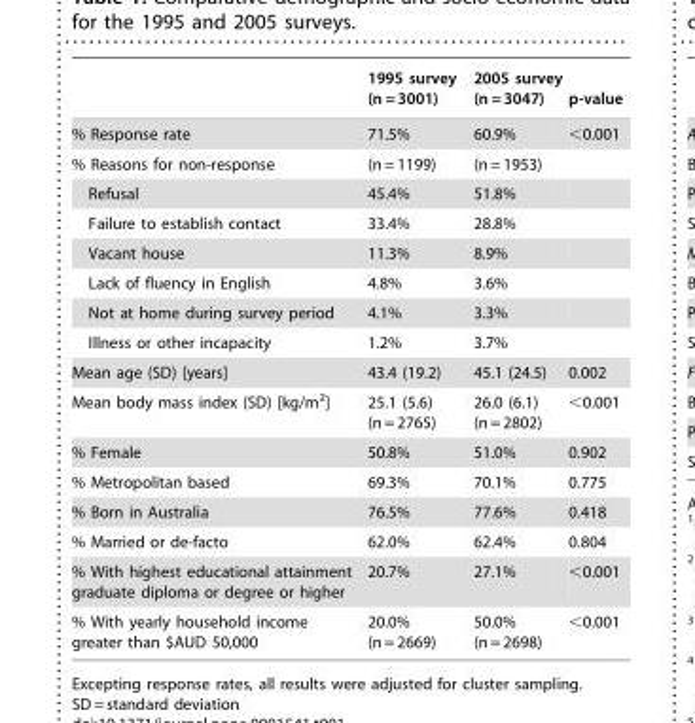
<table><thead><tr><td></td><td>1995 survey (n = 3001)</td><td>2005 survey (n = 3047)</td><td>p-value</td></tr></thead><tbody><tr><td>% Response rate</td><td>71.5%</td><td>60.9%</td><td>&lt;0.001</td></tr><tr><td>% Reasons for non-response</td><td>(n = 1199)</td><td>(n = 1953)</td><td></td></tr><tr><td>Refusal</td><td>45.4%</td><td>51.8%</td><td></td></tr><tr><td>Failure to establish contact</td><td>33.4%</td><td>28.8%</td><td></td></tr><tr><td>Vacant house</td><td>11.3%</td><td>8.9%</td><td></td></tr><tr><td>Lack of fluency in English</td><td>4.8%</td><td>3.6%</td><td></td></tr><tr><td>Not at home during survey period</td><td>4.1%</td><td>3.3%</td><td></td></tr><tr><td>Illness or other incapacity</td><td>1.2%</td><td>3.7%</td><td></td></tr><tr><td>Mean age (SD) [years]</td><td>43.4 (19.2)</td><td>45.1 (24.5)</td><td>0.002</td></tr><tr><td>Mean body mass index (SD) [kg/m<sup>2</sup>]</td><td>25.1 (5.6) (n = 2765)</td><td>26.0 (6.1) (n = 2802)</td><td>&lt;0.001</td></tr><tr><td>% Female</td><td>50.8%</td><td>51.0%</td><td>0.902</td></tr><tr><td>% Metropolitan based</td><td>69.3%</td><td>70.1%</td><td>0.775</td></tr><tr><td>% Born in Australia</td><td>76.5%</td><td>77.6%</td><td>0.418</td></tr><tr><td>% Married or de-facto</td><td>62.0%</td><td>62.4%</td><td>0.804</td></tr><tr><td>% With highest educational attainment graduate diploma or degree or higher</td><td>20.7%</td><td>27.1%</td><td>&lt;0.001</td></tr><tr><td>% With yearly household income greater than $AUD 50,000</td><td>20.0% (n = 2669)</td><td>50.0% (n = 2698)</td><td>&lt;0.001</td></tr></tbody></table>